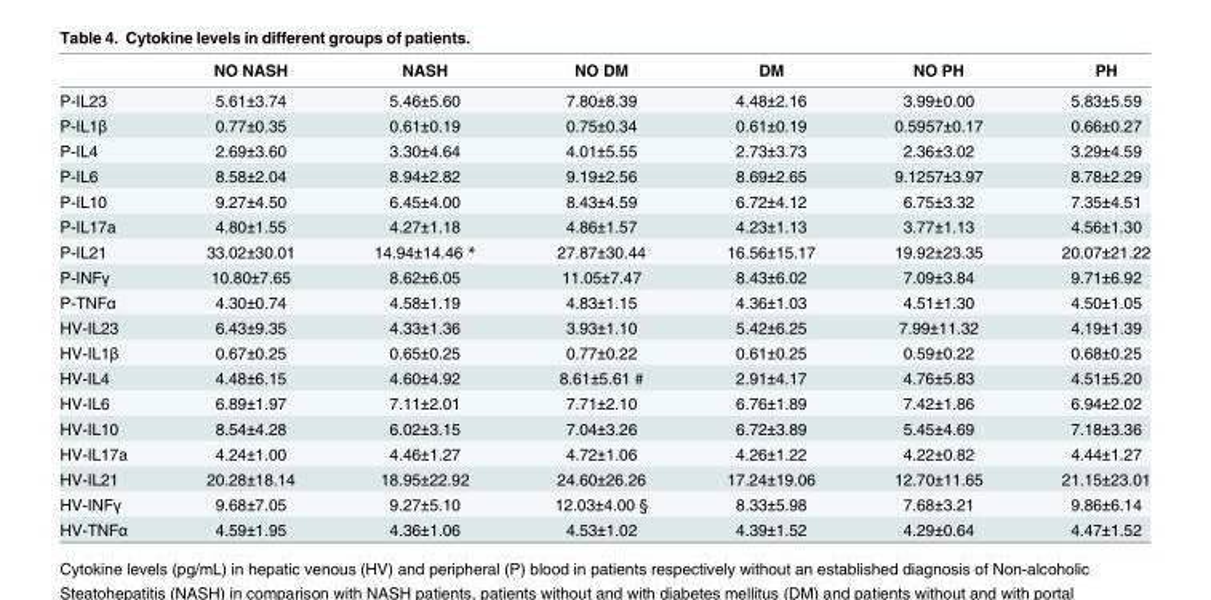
<table><thead><tr><td></td><td>NO NASH</td><td>NASH</td><td>NO DM</td><td>DM</td><td>NO PH</td><td>PH</td></tr></thead><tbody><tr><td>P-IL23</td><td>5.61±3.74</td><td>5.46±5.60</td><td>7.80±8.39</td><td>4.48±2.16</td><td>3.99±0.00</td><td>5.83±5.59</td></tr><tr><td>P-IL1β</td><td>0.77±0.35</td><td>0.61±0.19</td><td>0.75±0.34</td><td>0.61±0.19</td><td>0.5957±0.17</td><td>0.66±0.27</td></tr><tr><td>P-IL4</td><td>2.69±3.60</td><td>3.30±4.64</td><td>4.01±5.55</td><td>2.73±3.73</td><td>2.36±3.02</td><td>3.29±4.59</td></tr><tr><td>P-IL6</td><td>8.58±2.04</td><td>8.94±2.82</td><td>9.19±2.56</td><td>8.69±2.65</td><td>9.1257±3.97</td><td>8.78±2.29</td></tr><tr><td>P-IL10</td><td>9.27±4.50</td><td>6.45±4.00</td><td>8.43±4.59</td><td>6.72±4.12</td><td>6.75±3.32</td><td>7.35±4.51</td></tr><tr><td>P-IL17a</td><td>4.80±1.55</td><td>4.27±1.18</td><td>4.86±1.57</td><td>4.23±1.13</td><td>3.77±1.13</td><td>4.56±1.30</td></tr><tr><td>P-IL21</td><td>33.02±30.01</td><td>14.94±14.46 *</td><td>27.87±30.44</td><td>16.56±15.17</td><td>19.92±23.35</td><td>20.07±21.22</td></tr><tr><td>P-INFγ</td><td>10.80±7.65</td><td>8.62±6.05</td><td>11.05±7.47</td><td>8.43±6.02</td><td>7.09±3.84</td><td>9.71±6.92</td></tr><tr><td>P-TNFα</td><td>4.30±0.74</td><td>4.58±1.19</td><td>4.83±1.15</td><td>4.36±1.03</td><td>4.51±1.30</td><td>4.50±1.05</td></tr><tr><td>HV-IL23</td><td>6.43±9.35</td><td>4.33±1.36</td><td>3.93±1.10</td><td>5.42±6.25</td><td>7.99±11.32</td><td>4.19±1.39</td></tr><tr><td>HV-IL1β</td><td>0.67±0.25</td><td>0.65±0.25</td><td>0.77±0.22</td><td>0.61±0.25</td><td>0.59±0.22</td><td>0.68±0.25</td></tr><tr><td>HV-IL4</td><td>4.48±6.15</td><td>4.60±4.92</td><td>8.61±5.61 #</td><td>2.91±4.17</td><td>4.76±5.83</td><td>4.51±5.20</td></tr><tr><td>HV-IL6</td><td>6.89±1.97</td><td>7.11±2.01</td><td>7.71±2.10</td><td>6.76±1.89</td><td>7.42±1.86</td><td>6.94±2.02</td></tr><tr><td>HV-IL10</td><td>8.54±4.28</td><td>6.02±3.15</td><td>7.04±3.26</td><td>6.72±3.89</td><td>5.45±4.69</td><td>7.18±3.36</td></tr><tr><td>HV-IL17a</td><td>4.24±1.00</td><td>4.46±1.27</td><td>4.72±1.06</td><td>4.26±1.22</td><td>4.22±0.82</td><td>4.44±1.27</td></tr><tr><td>HV-IL21</td><td>20.28±18.14</td><td>18.95±22.92</td><td>24.60±26.26</td><td>17.24±19.06</td><td>12.70±11.65</td><td>21.15±23.01</td></tr><tr><td>HV-INFγ</td><td>9.68±7.05</td><td>9.27±5.10</td><td>12.03±4.00 §</td><td>8.33±5.98</td><td>7.68±3.21</td><td>9.86±6.14</td></tr><tr><td>HV-TNFα</td><td>4.59±1.95</td><td>4.36±1.06</td><td>4.53±1.02</td><td>4.39±1.52</td><td>4.29±0.64</td><td>4.47±1.52</td></tr></tbody></table>